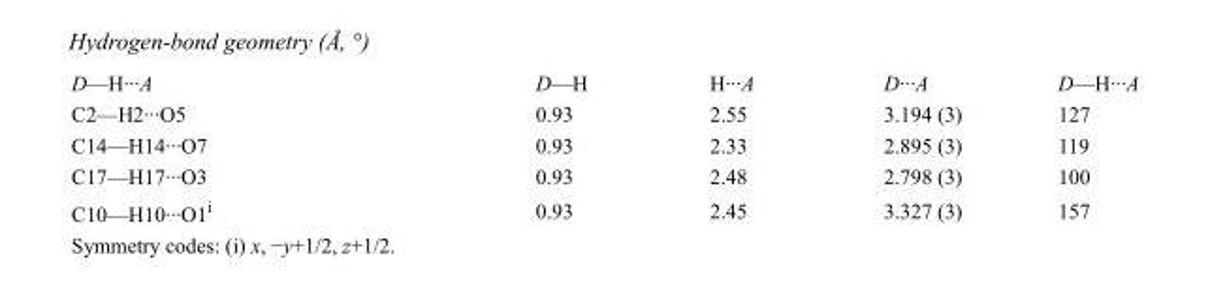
<table><tbody><tr><td>D—H···A</td><td>D—H</td><td>H···A</td><td>D···A</td><td>D—H···A</td></tr><tr><td>C2—H2···O5</td><td>0.93</td><td>2.55</td><td>3.194 (3)</td><td>127</td></tr><tr><td>C14—H14···O7</td><td>0.93</td><td>2.33</td><td>2.895 (3)</td><td>119</td></tr><tr><td>C17—H17···O3</td><td>0.93</td><td>2.48</td><td>2.798 (3)</td><td>100</td></tr><tr><td>C10—H10···O1<sup>i</sup></td><td>0.93</td><td>2.45</td><td>3.327 (3)</td><td>157</td></tr></tbody></table>